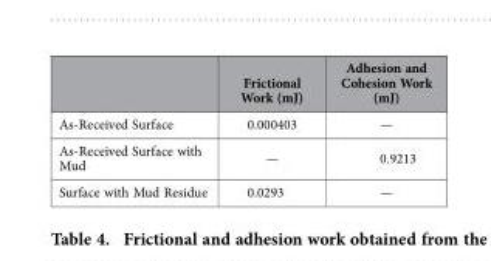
<table><thead><tr><td></td><td>Frictional Work (mJ)</td><td>Adhesion and Cohesion Work (mJ)</td></tr></thead><tbody><tr><td>As-Received Surface</td><td>0.000403</td><td>—</td></tr><tr><td>As-Received Surface with Mud</td><td>—</td><td>0.9213</td></tr><tr><td>Surface with Mud Residue</td><td>0.0293</td><td>—</td></tr></tbody></table>